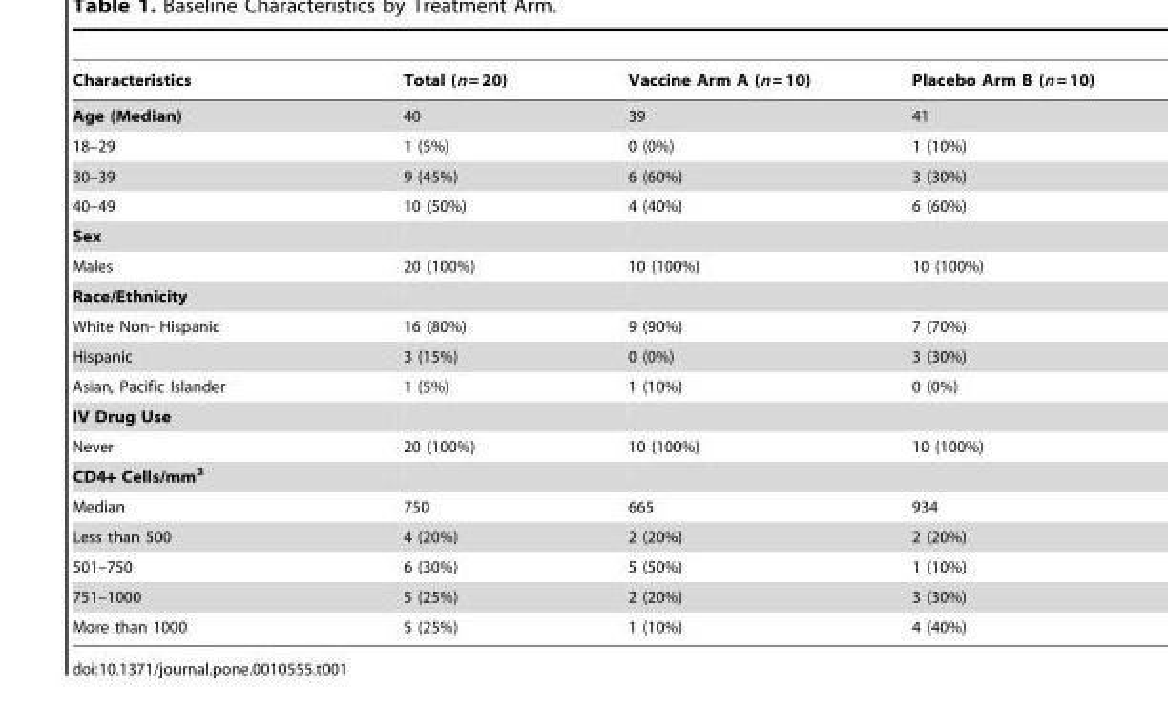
<table><thead><tr><td>Characteristics</td><td>Total (n = 20)</td><td>Vaccine Arm A (n = 10)</td><td>Placebo Arm B (n = 10)</td></tr></thead><tbody><tr><td>Age (Median)</td><td>40</td><td>39</td><td>41</td></tr><tr><td>18–29</td><td>1 (5%)</td><td>0 (0%)</td><td>1 (10%)</td></tr><tr><td>30–39</td><td>9 (45%)</td><td>6 (60%)</td><td>3 (30%)</td></tr><tr><td>40–49</td><td>10 (50%)</td><td>4 (40%)</td><td>6 (60%)</td></tr><tr><td colspan="4">Sex</td></tr><tr><td>Males</td><td>20 (100%)</td><td>10 (100%)</td><td>10 (100%)</td></tr><tr><td colspan="4">Race/Ethnicity</td></tr><tr><td>White Non- Hispanic</td><td>16 (80%)</td><td>9 (90%)</td><td>7 (70%)</td></tr><tr><td>Hispanic</td><td>3 (15%)</td><td>0 (0%)</td><td>3 (30%)</td></tr><tr><td>Asian, Pacific Islander</td><td>1 (5%)</td><td>1 (10%)</td><td>0 (0%)</td></tr><tr><td colspan="4">IV Drug Use</td></tr><tr><td>Never</td><td>20 (100%)</td><td>10 (100%)</td><td>10 (100%)</td></tr><tr><td colspan="4">CD4+ Cells/mm<sup>3</sup></td></tr><tr><td>Median</td><td>750</td><td>665</td><td>934</td></tr><tr><td>Less than 500</td><td>4 (20%)</td><td>2 (20%)</td><td>2 (20%)</td></tr><tr><td>501–750</td><td>6 (30%)</td><td>5 (50%)</td><td>1 (10%)</td></tr><tr><td>751–1000</td><td>5 (25%)</td><td>2 (20%)</td><td>3 (30%)</td></tr><tr><td>More than 1000</td><td>5 (25%)</td><td>1 (10%)</td><td>4 (40%)</td></tr></tbody></table>